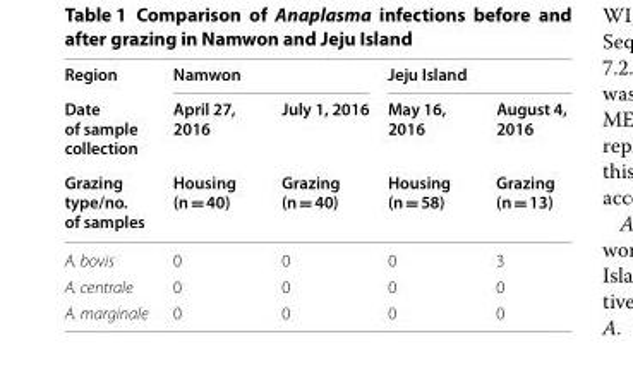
<table><thead><tr><td rowspan="3">Region Date of sample collection Grazing type/no. of samples</td><td colspan="2">Namwon</td><td colspan="2">Jeju Island</td></tr><tr><td rowspan="2">April 27, 2016 Housing (n = 40)</td><td rowspan="2">July 1, 2016 Grazing (n = 40)</td><td rowspan="2">May 16, 2016 Housing (n = 58)</td><td rowspan="2">August 4, 2016 Grazing (n = 13)</td></tr><tr></tr></thead><tbody><tr><td>A. bovis</td><td>0</td><td>0</td><td>0</td><td>3</td></tr><tr><td>A. centrale</td><td>0</td><td>0</td><td>0</td><td>0</td></tr><tr><td>A. marginale</td><td>0</td><td>0</td><td>0</td><td>0</td></tr></tbody></table>